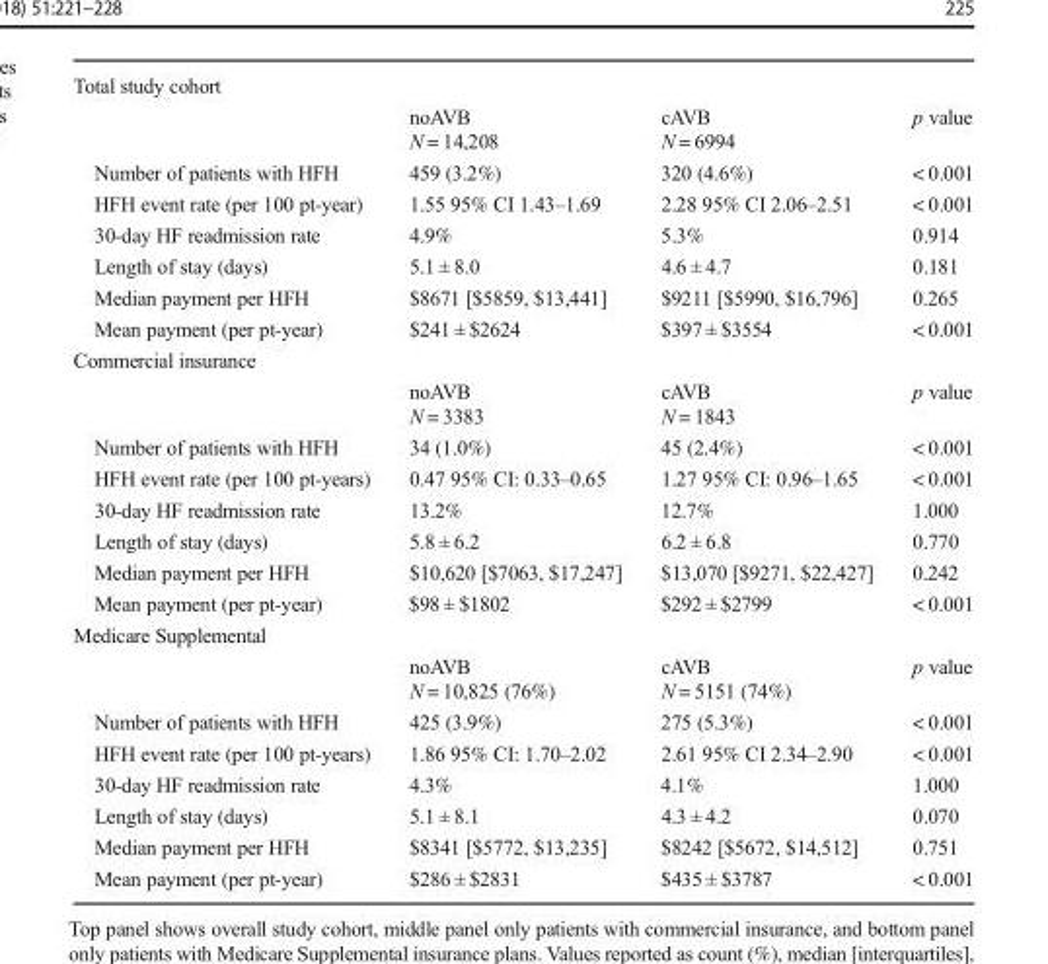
<table><tbody><tr><td colspan="4">Total study cohort</td></tr><tr><td rowspan="2"></td><td>noAVB</td><td>cAVB</td><td rowspan="2">p value</td></tr><tr><td>N = 14,208</td><td>N = 6994</td></tr><tr><td>Number of patients with HFH</td><td>459 (3.2%)</td><td>320 (4.6%)</td><td>&lt; 0.001</td></tr><tr><td>HFH event rate (per 100 pt-year)</td><td>1.55 95% CI 1.43–1.69</td><td>2.28 95% CI 2.06–2.51</td><td>&lt; 0.001</td></tr><tr><td>30-day HF readmission rate</td><td>4.9%</td><td>5.3%</td><td>0.914</td></tr><tr><td>Length of stay (days)</td><td>5.1 ± 8.0</td><td>4.6 ± 4.7</td><td>0.181</td></tr><tr><td>Median payment per HFH</td><td>$8671 [$5859, $13,441]</td><td>$9211 [$5990, $16,796]</td><td>0.265</td></tr><tr><td>Mean payment (per pt-year)</td><td>$241 ± $2624</td><td>$397 ± $3554</td><td>&lt; 0.001</td></tr><tr><td colspan="4">Commercial insurance</td></tr><tr><td rowspan="2"></td><td>noAVB</td><td>cAVB</td><td rowspan="2">p value</td></tr><tr><td>N = 3383</td><td>N = 1843</td></tr><tr><td>Number of patients with HFH</td><td>34 (1.0%)</td><td>45 (2.4%)</td><td>&lt; 0.001</td></tr><tr><td>HFH event rate (per 100 pt-years)</td><td>0.47 95% CI: 0.33–0.65</td><td>1.27 95% CI: 0.96–1.65</td><td>&lt; 0.001</td></tr><tr><td>30-day HF readmission rate</td><td>13.2%</td><td>12.7%</td><td>1.000</td></tr><tr><td>Length of stay (days)</td><td>5.8 ± 6.2</td><td>6.2 ± 6.8</td><td>0.770</td></tr><tr><td>Median payment per HFH</td><td>$10,620 [$7063, $17,247]</td><td>$13,070 [$9271, $22,427]</td><td>0.242</td></tr><tr><td>Mean payment (per pt-year)</td><td>$98 ± $1802</td><td>$292 ± $2799</td><td>&lt; 0.001</td></tr><tr><td colspan="4">Medicare Supplemental</td></tr><tr><td rowspan="2"></td><td>noAVB</td><td>cAVB</td><td rowspan="2">p value</td></tr><tr><td>N = 10,825 (76%)</td><td>N = 5151 (74%)</td></tr><tr><td>Number of patients with HFH</td><td>425 (3.9%)</td><td>275 (5.3%)</td><td>&lt; 0.001</td></tr><tr><td>HFH event rate (per 100 pt-years)</td><td>1.86 95% CI: 1.70–2.02</td><td>2.61 95% CI 2.34–2.90</td><td>&lt; 0.001</td></tr><tr><td>30-day HF readmission rate</td><td>4.3%</td><td>4.1%</td><td>1.000</td></tr><tr><td>Length of stay (days)</td><td>5.1 ± 8.1</td><td>4.3 ± 4.2</td><td>0.070</td></tr><tr><td>Median payment per HFH</td><td>$8341 [$5772, $13,235]</td><td>$8242 [$5672, $14,512]</td><td>0.751</td></tr><tr><td>Mean payment (per pt-year)</td><td>$286 ± $2831</td><td>$435 ± $3787</td><td>&lt; 0.001</td></tr></tbody></table>